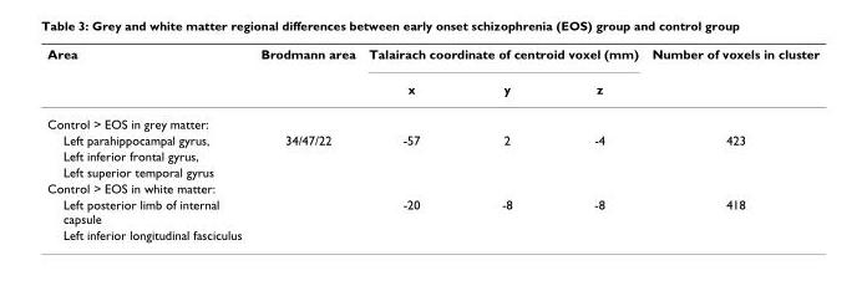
<table><thead><tr><td rowspan="2">Area</td><td rowspan="2">Brodmann area</td><td colspan="3">Talairach coordinate of centroid voxel (mm)</td><td rowspan="2">Number of voxels in cluster</td></tr><tr><td>x</td><td>y</td><td>z</td></tr></thead><tbody><tr><td colspan="6">Control &gt; EOS in grey matter:</td></tr><tr><td>Left parahippocampal gyrus,</td><td>34/47/22</td><td>-57</td><td>2</td><td>-4</td><td>423</td></tr><tr><td colspan="6">Left inferior frontal gyrus,</td></tr><tr><td colspan="6">Left superior temporal gyrus</td></tr><tr><td colspan="6">Control &gt; EOS in white matter:</td></tr><tr><td>Left posterior limb of internal capsule</td><td></td><td>-20</td><td>-8</td><td>-8</td><td>418</td></tr><tr><td>Left inferior longitudinal fasciculus</td><td></td><td></td><td></td><td></td><td></td></tr></tbody></table>